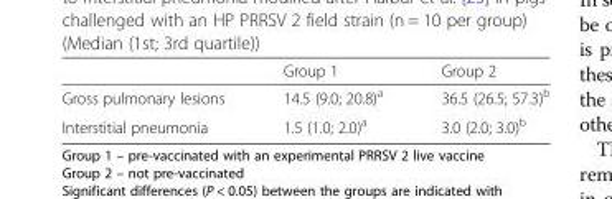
<table><thead><tr><td></td><td>Group 1</td><td>Group 2</td></tr></thead><tbody><tr><td>Gross pulmonary lesions</td><td>14.5 (9.0; 20.8)<sup>a</sup></td><td>36.5 (26.5; 57.3)<sup>b</sup></td></tr><tr><td>Interstitial pneumonia</td><td>1.5 (1.0; 2.0)<sup>a</sup></td><td>3.0 (2.0; 3.0)<sup>b</sup></td></tr></tbody></table>